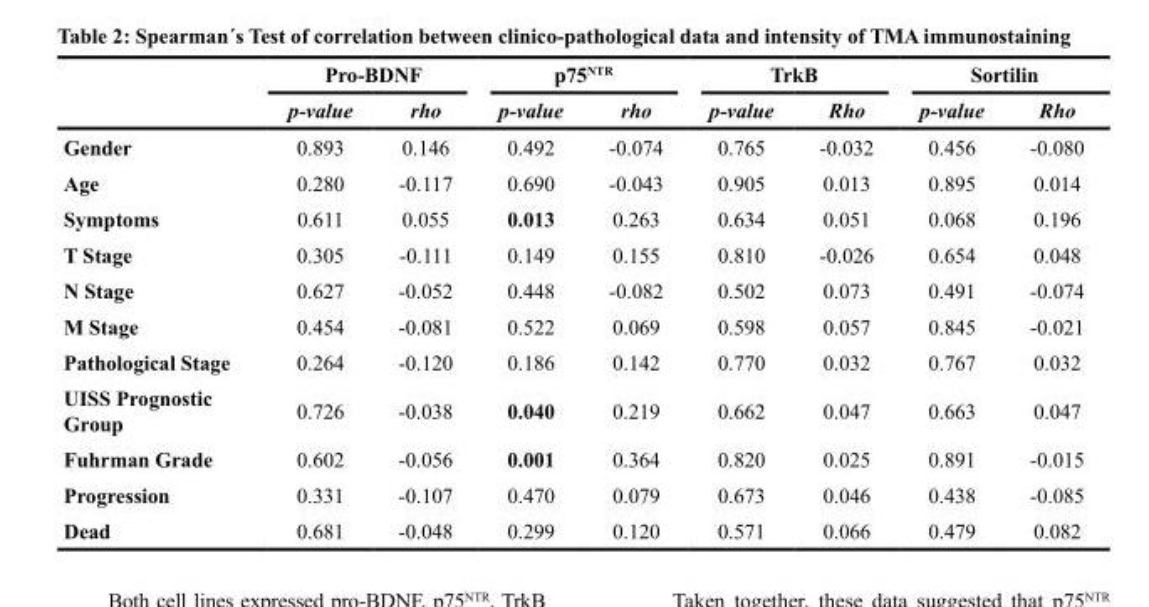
<table><thead><tr><td rowspan="2"></td><td colspan="2">Pro-BDNF</td><td colspan="2">p75<sup>NTR</sup></td><td colspan="2">TrkB</td><td colspan="2">Sortilin</td></tr><tr><td>p-value</td><td>rho</td><td>p-value</td><td>rho</td><td>p-value</td><td>Rho</td><td>p-value</td><td>Rho</td></tr></thead><tbody><tr><td>Gender</td><td>0.893</td><td>0.146</td><td>0.492</td><td>-0.074</td><td>0.765</td><td>-0.032</td><td>0.456</td><td>-0.080</td></tr><tr><td>Age</td><td>0.280</td><td>-0.117</td><td>0.690</td><td>-0.043</td><td>0.905</td><td>0.013</td><td>0.895</td><td>0.014</td></tr><tr><td>Symptoms</td><td>0.611</td><td>0.055</td><td>0.013</td><td>0.263</td><td>0.634</td><td>0.051</td><td>0.068</td><td>0.196</td></tr><tr><td>T Stage</td><td>0.305</td><td>-0.111</td><td>0.149</td><td>0.155</td><td>0.810</td><td>-0.026</td><td>0.654</td><td>0.048</td></tr><tr><td>N Stage</td><td>0.627</td><td>-0.052</td><td>0.448</td><td>-0.082</td><td>0.502</td><td>0.073</td><td>0.491</td><td>-0.074</td></tr><tr><td>M Stage</td><td>0.454</td><td>-0.081</td><td>0.522</td><td>0.069</td><td>0.598</td><td>0.057</td><td>0.845</td><td>-0.021</td></tr><tr><td>Pathological Stage</td><td>0.264</td><td>-0.120</td><td>0.186</td><td>0.142</td><td>0.770</td><td>0.032</td><td>0.767</td><td>0.032</td></tr><tr><td>UISS Prognostic Group</td><td>0.726</td><td>-0.038</td><td>0.040</td><td>0.219</td><td>0.662</td><td>0.047</td><td>0.663</td><td>0.047</td></tr><tr><td>Fuhrman Grade</td><td>0.602</td><td>-0.056</td><td>0.001</td><td>0.364</td><td>0.820</td><td>0.025</td><td>0.891</td><td>-0.015</td></tr><tr><td>Progression</td><td>0.331</td><td>-0.107</td><td>0.470</td><td>0.079</td><td>0.673</td><td>0.046</td><td>0.438</td><td>-0.085</td></tr><tr><td>Dead</td><td>0.681</td><td>-0.048</td><td>0.299</td><td>0.120</td><td>0.571</td><td>0.066</td><td>0.479</td><td>0.082</td></tr></tbody></table>